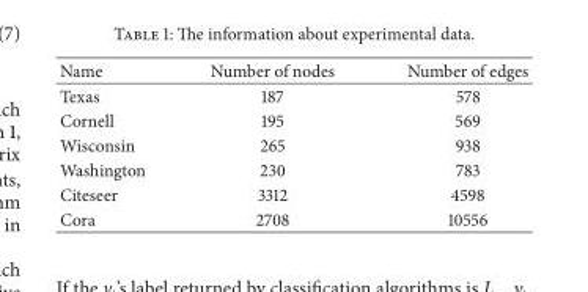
<table><thead><tr><td>Name</td><td>Number of nodes</td><td>Number of edges</td></tr></thead><tbody><tr><td>Texas</td><td>187</td><td>578</td></tr><tr><td>Cornell</td><td>195</td><td>569</td></tr><tr><td>Wisconsin</td><td>265</td><td>938</td></tr><tr><td>Washington</td><td>230</td><td>783</td></tr><tr><td>Citeseer</td><td>3312</td><td>4598</td></tr><tr><td>Cora</td><td>2708</td><td>10556</td></tr></tbody></table>